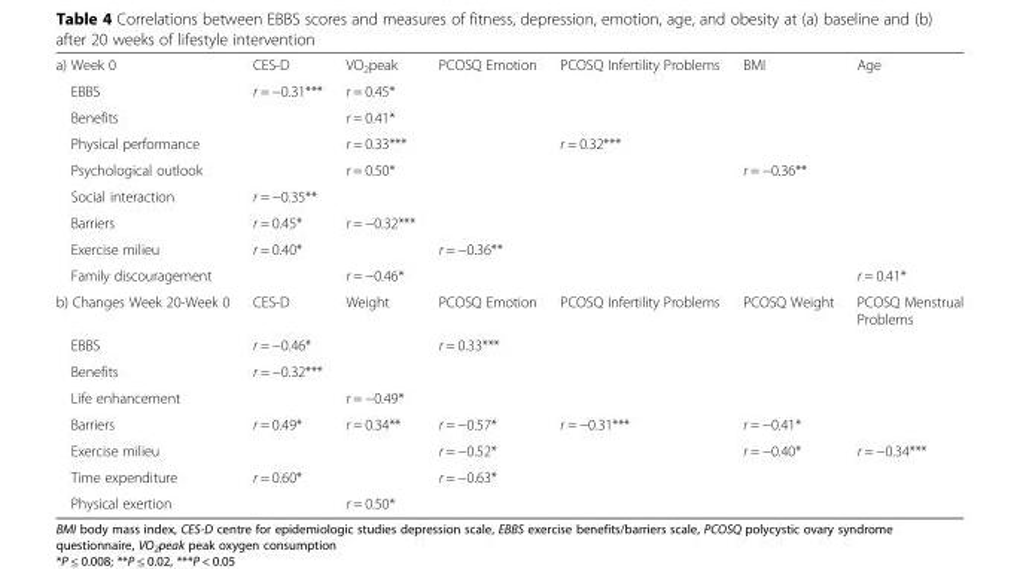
<table><tbody><tr><td>a) Week 0</td><td>CES-D</td><td>VO<sub>2</sub>peak</td><td>PCOSQ Emotion</td><td>PCOSQ Infertility Problems</td><td>BMI</td><td>Age</td></tr><tr><td>EBBS</td><td>r = −0.31***</td><td>r = 0.45*</td><td></td><td></td><td></td><td></td></tr><tr><td>Benefits</td><td></td><td>r = 0.41*</td><td></td><td></td><td></td><td></td></tr><tr><td>Physical performance</td><td></td><td>r = 0.33***</td><td></td><td>r = 0.32***</td><td></td><td></td></tr><tr><td>Psychological outlook</td><td></td><td>r = 0.50*</td><td></td><td></td><td>r = −0.36**</td><td></td></tr><tr><td>Social interaction</td><td>r = −0.35**</td><td></td><td></td><td></td><td></td><td></td></tr><tr><td>Barriers</td><td>r = 0.45*</td><td>r = −0.32***</td><td></td><td></td><td></td><td></td></tr><tr><td>Exercise milieu</td><td>r = 0.40*</td><td></td><td>r = −0.36**</td><td></td><td></td><td></td></tr><tr><td>Family discouragement</td><td></td><td>r = −0.46*</td><td></td><td></td><td></td><td>r = 0.41*</td></tr><tr><td>b) Changes Week 20-Week 0</td><td>CES-D</td><td>Weight</td><td>PCOSQ Emotion</td><td>PCOSQ Infertility Problems</td><td>PCOSQ Weight</td><td>PCOSQ Menstrual Problems</td></tr><tr><td>EBBS</td><td>r = −0.46*</td><td></td><td>r = 0.33***</td><td></td><td></td><td></td></tr><tr><td>Benefits</td><td>r = −0.32***</td><td></td><td></td><td></td><td></td><td></td></tr><tr><td>Life enhancement</td><td></td><td>r = −0.49*</td><td></td><td></td><td></td><td></td></tr><tr><td>Barriers</td><td>r = 0.49*</td><td>r = 0.34**</td><td>r = −0.57*</td><td>r = −0.31***</td><td>r = −0.41*</td><td></td></tr><tr><td>Exercise milieu</td><td></td><td></td><td>r = −0.52*</td><td></td><td>r = −0.40*</td><td>r = −0.34***</td></tr><tr><td>Time expenditure</td><td>r = 0.60*</td><td></td><td>r = −0.63*</td><td></td><td></td><td></td></tr><tr><td>Physical exertion</td><td></td><td>r = 0.50*</td><td></td><td></td><td></td><td></td></tr></tbody></table>